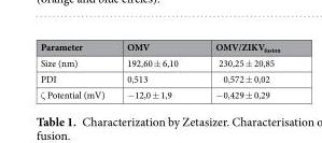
<table><thead><tr><td>Parameter</td><td>OMV</td><td>OMV/ZIKV<sub>fusion</sub></td></tr></thead><tbody><tr><td>Size (nm)</td><td>192,60 ± 6,10</td><td>230,25 ± 20,85</td></tr><tr><td>PDI</td><td>0,513</td><td>0,572 ± 0,02</td></tr><tr><td>ζ Potential (mV)</td><td>−12,0 ± 1,9</td><td>−0,429 ± 0,29</td></tr></tbody></table>